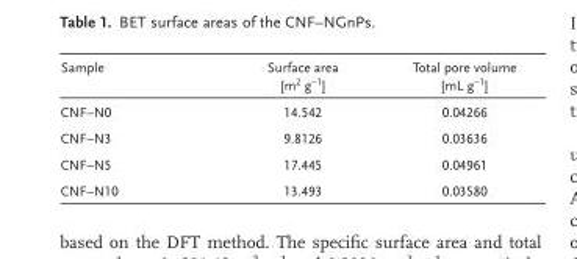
<table><thead><tr><td>Sample</td><td>Surface area [m <sup>2</sup> g <sup>−1</sup> ]</td><td>Total pore volume [mL g <sup>−1</sup> ]</td></tr></thead><tbody><tr><td>CNF–N0</td><td>14.542</td><td>0.04266</td></tr><tr><td>CNF–N3</td><td>9.8126</td><td>0.03636</td></tr><tr><td>CNF–N5</td><td>17.445</td><td>0.04961</td></tr><tr><td>CNF–N10</td><td>13.493</td><td>0.03580</td></tr></tbody></table>